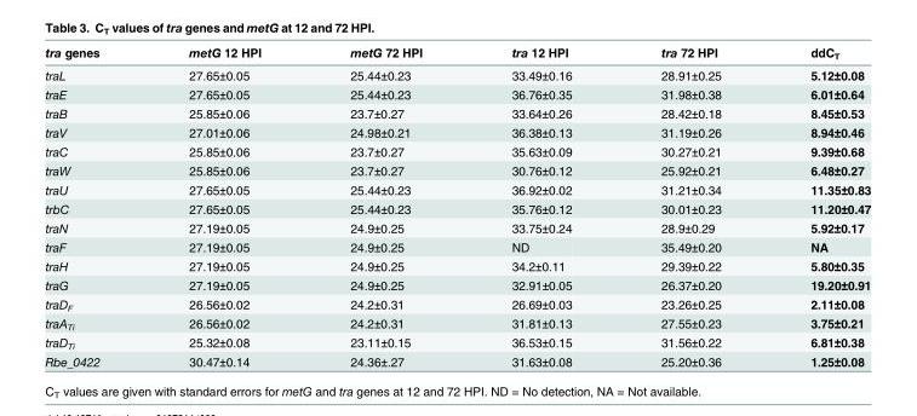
<table><thead><tr><td>tra genes</td><td>metG 12 HPI</td><td>metG 72 HPI</td><td>tra 12 HPI</td><td>tra 72 HPI</td><td>ddC<sub>T</sub></td></tr></thead><tbody><tr><td>traL</td><td>27.65±0.05</td><td>25.44±0.23</td><td>33.49±0.16</td><td>28.91±0.25</td><td>5.12±0.08</td></tr><tr><td>traE</td><td>27.65±0.05</td><td>25.44±0.23</td><td>36.76±0.35</td><td>31.98±0.38</td><td>6.01±0.64</td></tr><tr><td>traB</td><td>25.85±0.06</td><td>23.7±0.27</td><td>33.64±0.26</td><td>28.42±0.18</td><td>8.45±0.53</td></tr><tr><td>traV</td><td>27.01±0.06</td><td>24.98±0.21</td><td>36.38±0.13</td><td>31.19±0.26</td><td>8.94±0.46</td></tr><tr><td>traC</td><td>25.85±0.06</td><td>23.7±0.27</td><td>35.63±0.09</td><td>30.27±0.21</td><td>9.39±0.68</td></tr><tr><td>traW</td><td>25.85±0.06</td><td>23.7±0.27</td><td>30.76±0.12</td><td>25.92±0.21</td><td>6.48±0.27</td></tr><tr><td>traU</td><td>27.65±0.05</td><td>25.44±0.23</td><td>36.92±0.02</td><td>31.21±0.34</td><td>11.35±0.83</td></tr><tr><td>trbC</td><td>27.65±0.05</td><td>25.44±0.23</td><td>35.76±0.12</td><td>30.01±0.23</td><td>11.20±0.47</td></tr><tr><td>traN</td><td>27.19±0.05</td><td>24.9±0.25</td><td>33.75±0.24</td><td>28.9±0.29</td><td>5.92±0.17</td></tr><tr><td>traF</td><td>27.19±0.05</td><td>24.9±0.25</td><td>ND</td><td>35.49±0.20</td><td>NA</td></tr><tr><td>traH</td><td>27.19±0.05</td><td>24.9±0.25</td><td>34.2±0.11</td><td>29.39±0.22</td><td>5.80±0.35</td></tr><tr><td>traG</td><td>27.19±0.05</td><td>24.9±0.25</td><td>32.91±0.05</td><td>26.37±0.20</td><td>19.20±0.91</td></tr><tr><td>traD<sub>F</sub></td><td>26.56±0.02</td><td>24.2±0.31</td><td>26.69±0.03</td><td>23.26±0.25</td><td>2.11±0.08</td></tr><tr><td>traA<sub>Ti</sub></td><td>26.56±0.02</td><td>24.2±0.31</td><td>31.81±0.13</td><td>27.55±0.23</td><td>3.75±0.21</td></tr><tr><td>traD<sub>Ti</sub></td><td>25.32±0.08</td><td>23.11±0.15</td><td>36.53±0.15</td><td>31.56±0.22</td><td>6.81±0.38</td></tr><tr><td>Rbe_0422</td><td>30.47±0.14</td><td>24.36±.27</td><td>31.63±0.08</td><td>25.20±0.36</td><td>1.25±0.08</td></tr></tbody></table>